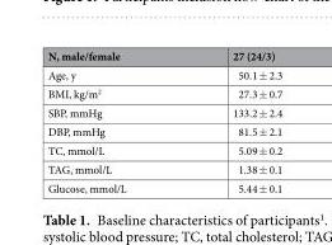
<table><thead><tr><td>N, male/female</td><td>27 (24/3)</td></tr></thead><tbody><tr><td>Age, y</td><td>50.1 ± 2.3</td></tr><tr><td>BMI, kg/m<sup>2</sup></td><td>27.3 ± 0.7</td></tr><tr><td>SBP, mmHg</td><td>133.2 ± 2.4</td></tr><tr><td>DBP, mmHg</td><td>81.5 ± 2.1</td></tr><tr><td>TC, mmol/L</td><td>5.09 ± 0.2</td></tr><tr><td>TAG, mmol/L</td><td>1.38 ± 0.1</td></tr><tr><td>Glucose, mmol/L</td><td>5.44 ± 0.1</td></tr></tbody></table>